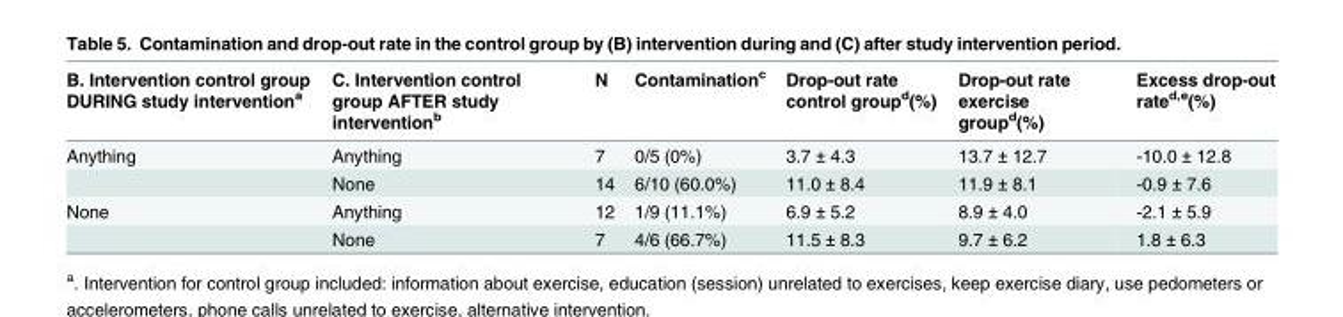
<table><thead><tr><td>B. Intervention control group DURING study intervention<sup>a</sup></td><td>C. Intervention control group AFTER study intervention<sup>b</sup></td><td>N</td><td>Contamination<sup>c</sup></td><td>Drop-out rate control group<sup>d</sup>(%)</td><td>Drop-out rate exercise group<sup>d</sup>(%)</td><td>Excess drop-out rate<sup>d,e</sup>(%)</td></tr></thead><tbody><tr><td rowspan="2">Anything</td><td>Anything</td><td>7</td><td>0/5 (0%)</td><td>3.7 ± 4.3</td><td>13.7 ± 12.7</td><td>-10.0 ± 12.8</td></tr><tr><td>None</td><td>14</td><td>6/10 (60.0%)</td><td>11.0 ± 8.4</td><td>11.9 ± 8.1</td><td>-0.9 ± 7.6</td></tr><tr><td rowspan="2">None</td><td>Anything</td><td>12</td><td>1/9 (11.1%)</td><td>6.9 ± 5.2</td><td>8.9 ± 4.0</td><td>-2.1 ± 5.9</td></tr><tr><td>None</td><td>7</td><td>4/6 (66.7%)</td><td>11.5 ± 8.3</td><td>9.7 ± 6.2</td><td>1.8 ± 6.3</td></tr></tbody></table>